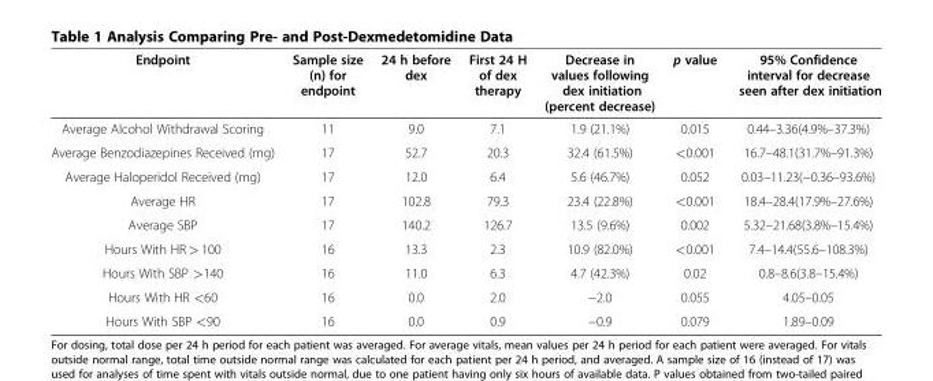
<table><thead><tr><td>Endpoint</td><td>Sample size (n) for endpoint</td><td>24 h before dex</td><td>First 24 H of dex therapy</td><td>Decrease in values following dex initiation (percent decrease)</td><td>p value</td><td>95% Confidence interval for decrease seen after dex initiation</td></tr></thead><tbody><tr><td>Average Alcohol Withdrawal Scoring</td><td>11</td><td>9.0</td><td>7.1</td><td>1.9 (21.1%)</td><td>0.015</td><td>0.44–3.36(4.9%–37.3%)</td></tr><tr><td>Average Benzodiazepines Received (mg)</td><td>17</td><td>52.7</td><td>20.3</td><td>32.4 (61.5%)</td><td>&lt;0.001</td><td>16.7–48.1(31.7%–91.3%)</td></tr><tr><td>Average Haloperidol Received (mg)</td><td>17</td><td>12.0</td><td>6.4</td><td>5.6 (46.7%)</td><td>0.052</td><td>0.03–11.23(−0.36–93.6%)</td></tr><tr><td>Average HR</td><td>17</td><td>102.8</td><td>79.3</td><td>23.4 (22.8%)</td><td>&lt;0.001</td><td>18.4–28.4(17.9%–27.6%)</td></tr><tr><td>Average SBP</td><td>17</td><td>140.2</td><td>126.7</td><td>13.5 (9.6%)</td><td>0.002</td><td>5.32–21.68(3.8%–15.4%)</td></tr><tr><td>Hours With HR &gt; 100</td><td>16</td><td>13.3</td><td>2.3</td><td>10.9 (82.0%)</td><td>&lt;0.001</td><td>7.4–14.4(55.6–108.3%)</td></tr><tr><td>Hours With SBP &gt;140</td><td>16</td><td>11.0</td><td>6.3</td><td>4.7 (42.3%)</td><td>0.02</td><td>0.8–8.6(3.8–15.4%)</td></tr><tr><td>Hours With HR &lt;60</td><td>16</td><td>0.0</td><td>2.0</td><td>−2.0</td><td>0.055</td><td>4.05–0.05</td></tr><tr><td>Hours With SBP &lt;90</td><td>16</td><td>0.0</td><td>0.9</td><td>−0.9</td><td>0.079</td><td>1.89–0.09</td></tr></tbody></table>